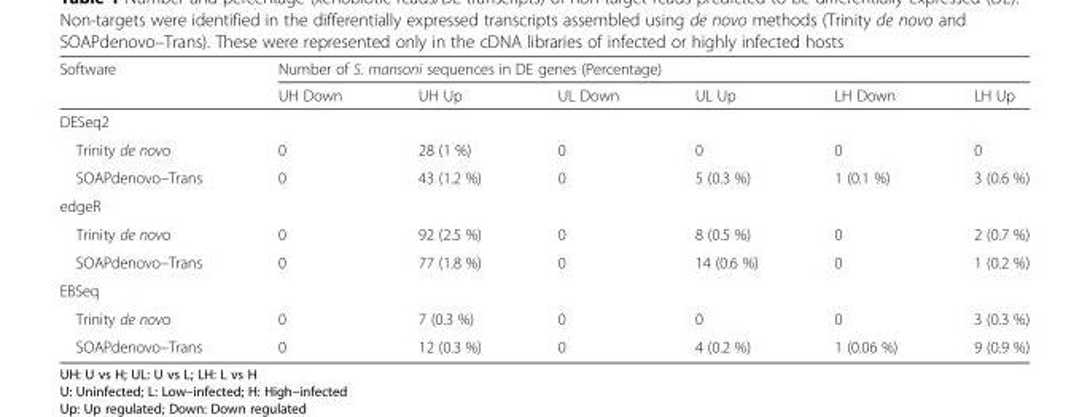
<table><thead><tr><td rowspan="2">Software</td><td colspan="6">Number of S. mansoni sequences in DE genes (Percentage)</td></tr><tr><td>UH Down</td><td>UH Up</td><td>UL Down</td><td>UL Up</td><td>LH Down</td><td>LH Up</td></tr></thead><tbody><tr><td colspan="7">DESeq2</td></tr><tr><td>Trinity de novo</td><td>0</td><td>28 (1 %)</td><td>0</td><td>0</td><td>0</td><td>0</td></tr><tr><td>SOAPdenovo–Trans</td><td>0</td><td>43 (1.2 %)</td><td>0</td><td>5 (0.3 %)</td><td>1 (0.1 %)</td><td>3 (0.6 %)</td></tr><tr><td colspan="7">edgeR</td></tr><tr><td>Trinity de novo</td><td>0</td><td>92 (2.5 %)</td><td>0</td><td>8 (0.5 %)</td><td>0</td><td>2 (0.7 %)</td></tr><tr><td>SOAPdenovo–Trans</td><td>0</td><td>77 (1.8 %)</td><td>0</td><td>14 (0.6 %)</td><td>0</td><td>1 (0.2 %)</td></tr><tr><td colspan="7">EBSeq</td></tr><tr><td>Trinity de novo</td><td>0</td><td>7 (0.3 %)</td><td>0</td><td>0</td><td>0</td><td>3 (0.3 %)</td></tr><tr><td>SOAPdenovo–Trans</td><td>0</td><td>12 (0.3 %)</td><td>0</td><td>4 (0.2 %)</td><td>1 (0.06 %)</td><td>9 (0.9 %)</td></tr></tbody></table>